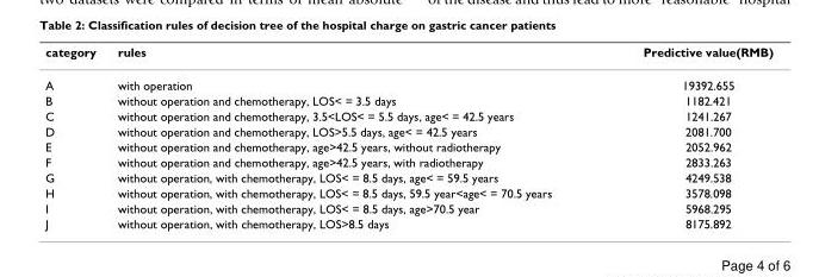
<table><thead><tr><td>category</td><td>rules</td><td>Predictive value(RMB)</td></tr></thead><tbody><tr><td>A</td><td>with operation</td><td>19392.655</td></tr><tr><td>B</td><td>without operation and chemotherapy, LOS&lt; = 3.5 days</td><td>1182.421</td></tr><tr><td>C</td><td>without operation and chemotherapy, 3.5&lt;LOS&lt; = 5.5 days, age&lt; = 42.5 years</td><td>1241.267</td></tr><tr><td>D</td><td>without operation and chemotherapy, LOS&gt;5.5 days, age&lt; = 42.5 years</td><td>2081.700</td></tr><tr><td>E</td><td>without operation and chemotherapy, age&gt;42.5 years, without radiotherapy</td><td>2052.962</td></tr><tr><td>F</td><td>without operation and chemotherapy, age&gt;42.5 years, with radiotherapy</td><td>2833.263</td></tr><tr><td>G</td><td>without operation, with chemotherapy, LOS&lt; = 8.5 days, age&lt; = 59.5 years</td><td>4249.538</td></tr><tr><td>H</td><td>without operation, with chemotherapy, LOS&lt; = 8.5 days, 59.5 year&lt;age&lt; = 70.5 years</td><td>3578.098</td></tr><tr><td>I</td><td>without operation, with chemotherapy, LOS&lt; = 8.5 days, age&gt;70.5 year</td><td>5968.295</td></tr><tr><td>J</td><td>without operation, with chemotherapy, LOS&gt;8.5 days</td><td>8175.892</td></tr></tbody></table>